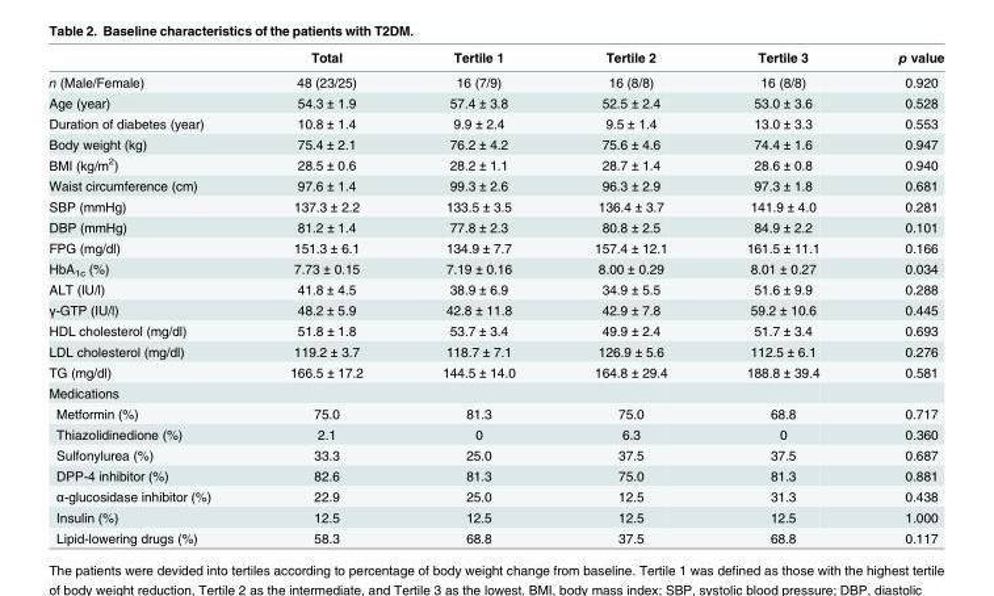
<table><thead><tr><td></td><td>Total</td><td>Tertile 1</td><td>Tertile 2</td><td>Tertile 3</td><td>p value</td></tr></thead><tbody><tr><td>n (Male/Female)</td><td>48 (23/25)</td><td>16 (7/9)</td><td>16 (8/8)</td><td>16 (8/8)</td><td>0.920</td></tr><tr><td>Age (year)</td><td>54.3 ± 1.9</td><td>57.4 ± 3.8</td><td>52.5 ± 2.4</td><td>53.0 ± 3.6</td><td>0.528</td></tr><tr><td>Duration of diabetes (year)</td><td>10.8 ± 1.4</td><td>9.9 ± 2.4</td><td>9.5 ± 1.4</td><td>13.0 ± 3.3</td><td>0.553</td></tr><tr><td>Body weight (kg)</td><td>75.4 ± 2.1</td><td>76.2 ± 4.2</td><td>75.6 ± 4.6</td><td>74.4 ± 1.6</td><td>0.947</td></tr><tr><td>BMI (kg/m<sup>2</sup>)</td><td>28.5 ± 0.6</td><td>28.2 ± 1.1</td><td>28.7 ± 1.4</td><td>28.6 ± 0.8</td><td>0.940</td></tr><tr><td>Waist circumference (cm)</td><td>97.6 ± 1.4</td><td>99.3 ± 2.6</td><td>96.3 ± 2.9</td><td>97.3 ± 1.8</td><td>0.681</td></tr><tr><td>SBP (mmHg)</td><td>137.3 ± 2.2</td><td>133.5 ± 3.5</td><td>136.4 ± 3.7</td><td>141.9 ± 4.0</td><td>0.281</td></tr><tr><td>DBP (mmHg)</td><td>81.2 ± 1.4</td><td>77.8 ± 2.3</td><td>80.8 ± 2.5</td><td>84.9 ± 2.2</td><td>0.101</td></tr><tr><td>FPG (mg/dl)</td><td>151.3 ± 6.1</td><td>134.9 ± 7.7</td><td>157.4 ± 12.1</td><td>161.5 ± 11.1</td><td>0.166</td></tr><tr><td>HbA<sub>1c</sub> (%)</td><td>7.73 ± 0.15</td><td>7.19 ± 0.16</td><td>8.00 ± 0.29</td><td>8.01 ± 0.27</td><td>0.034</td></tr><tr><td>ALT (IU/l)</td><td>41.8 ± 4.5</td><td>38.9 ± 6.9</td><td>34.9 ± 5.5</td><td>51.6 ± 9.9</td><td>0.288</td></tr><tr><td>γ-GTP (IU/l)</td><td>48.2 ± 5.9</td><td>42.8 ± 11.8</td><td>42.9 ± 7.8</td><td>59.2 ± 10.6</td><td>0.445</td></tr><tr><td>HDL cholesterol (mg/dl)</td><td>51.8 ± 1.8</td><td>53.7 ± 3.4</td><td>49.9 ± 2.4</td><td>51.7 ± 3.4</td><td>0.693</td></tr><tr><td>LDL cholesterol (mg/dl)</td><td>119.2 ± 3.7</td><td>118.7 ± 7.1</td><td>126.9 ± 5.6</td><td>112.5 ± 6.1</td><td>0.276</td></tr><tr><td>TG (mg/dl)</td><td>166.5 ± 17.2</td><td>144.5 ± 14.0</td><td>164.8 ± 29.4</td><td>188.8 ± 39.4</td><td>0.581</td></tr><tr><td colspan="6">Medications</td></tr><tr><td>Metformin (%)</td><td>75.0</td><td>81.3</td><td>75.0</td><td>68.8</td><td>0.717</td></tr><tr><td>Thiazolidinedione (%)</td><td>2.1</td><td>0</td><td>6.3</td><td>0</td><td>0.360</td></tr><tr><td>Sulfonylurea (%)</td><td>33.3</td><td>25.0</td><td>37.5</td><td>37.5</td><td>0.687</td></tr><tr><td>DPP-4 inhibitor (%)</td><td>82.6</td><td>81.3</td><td>75.0</td><td>81.3</td><td>0.881</td></tr><tr><td>α-glucosidase inhibitor (%)</td><td>22.9</td><td>25.0</td><td>12.5</td><td>31.3</td><td>0.438</td></tr><tr><td>Insulin (%)</td><td>12.5</td><td>12.5</td><td>12.5</td><td>12.5</td><td>1.000</td></tr><tr><td>Lipid-lowering drugs (%)</td><td>58.3</td><td>68.8</td><td>37.5</td><td>68.8</td><td>0.117</td></tr></tbody></table>